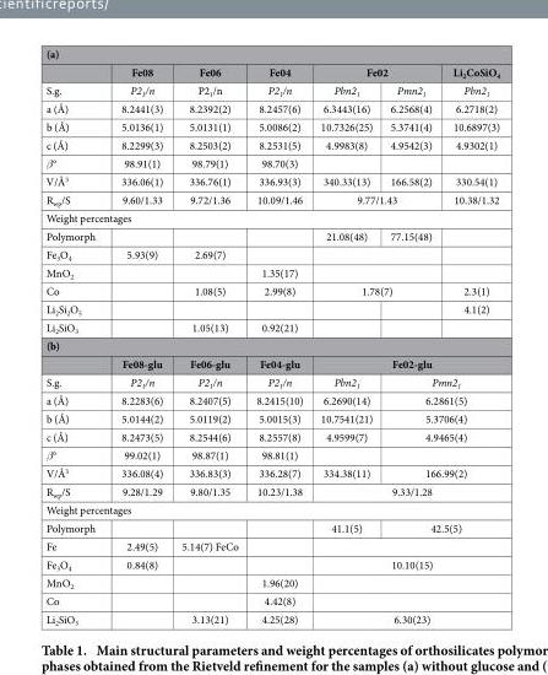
<table><thead><tr><td colspan="7">(a)</td></tr><tr><td rowspan="2">S.g.</td><td rowspan="2">Fe08 P21/n</td><td rowspan="2">Fe06 P21/n</td><td rowspan="2">Fe04 P21/n</td><td colspan="2">Fe02</td><td rowspan="2">Li<sub>2</sub>CoSiO<sub>4</sub> Pbn2<sub>1</sub></td></tr><tr><td>Pbn2<sub>1</sub></td><td>Pmn2<sub>1</sub></td></tr></thead><tbody><tr><td>a (Å)</td><td>8.2441(3)</td><td>8.2392(2)</td><td>8.2457(6)</td><td>6.3443(16)</td><td>6.2568(4)</td><td>6.2718(2)</td></tr><tr><td>b (Å)</td><td>5.0136(1)</td><td>5.0131(1)</td><td>5.0086(2)</td><td>10.7326(25)</td><td>5.3741(4)</td><td>10.6897(3)</td></tr><tr><td>c (Å)</td><td>8.2299(3)</td><td>8.2503(2)</td><td>8.2531(5)</td><td>4.9983(8)</td><td>4.9542(3)</td><td>4.9302(1)</td></tr><tr><td>β°</td><td>98.91(1)</td><td>98.79(1)</td><td>98.70(3)</td><td></td><td></td><td></td></tr><tr><td>V/Å<sup>3</sup></td><td>336.06(1)</td><td>336.76(1)</td><td>336.93(3)</td><td>340.33(13)</td><td>166.58(2)</td><td>330.54(1)</td></tr><tr><td>R<sub>wp</sub>/S</td><td>9.60/1.33</td><td>9.72/1.36</td><td>10.09/1.46</td><td colspan="2">9.77/1.43</td><td>10.38/1.32</td></tr><tr><td colspan="7">Weight percentages</td></tr><tr><td>Polymorph</td><td></td><td></td><td></td><td>21.08(48)</td><td>77.15(48)</td><td></td></tr><tr><td>Fe<sub>3</sub>O<sub>4</sub></td><td>5.93(9)</td><td>2.69(7)</td><td></td><td colspan="2"></td><td></td></tr><tr><td>MnO<sub>2</sub></td><td></td><td></td><td>1.35(17)</td><td colspan="2"></td><td></td></tr><tr><td>Co</td><td></td><td>1.08(5)</td><td>2.99(8)</td><td colspan="2">1.78(7)</td><td>2.3(1)</td></tr><tr><td>Li<sub>2</sub>Si<sub>2</sub>O<sub>5</sub></td><td></td><td></td><td></td><td></td><td></td><td>4.1(2)</td></tr><tr><td>Li<sub>2</sub>SiO<sub>3</sub></td><td></td><td>1.05(13)</td><td>0.92(21)</td><td></td><td></td><td></td></tr><tr><td colspan="7">(b)</td></tr><tr><td></td><td>Fe08-glu</td><td>Fe06-glu</td><td>Fe04-glu</td><td colspan="3">Fe02-glu</td></tr><tr><td>S.g.</td><td>P21/n</td><td>P21/n</td><td>P21/n</td><td>Pbn2<sub>1</sub></td><td colspan="2">Pmn2<sub>1</sub></td></tr><tr><td>a (Å)</td><td>8.2283(6)</td><td>8.2407(5)</td><td>8.2415(10)</td><td>6.2690(14)</td><td colspan="2">6.2861(5)</td></tr><tr><td>b (Å)</td><td>5.0144(2)</td><td>5.0119(2)</td><td>5.0015(3)</td><td>10.7541(21)</td><td colspan="2">5.3706(4)</td></tr><tr><td>c (Å)</td><td>8.2473(5)</td><td>8.2544(6)</td><td>8.2557(8)</td><td>4.9599(7)</td><td colspan="2">4.9465(4)</td></tr><tr><td>β°</td><td>99.02(1)</td><td>98.87(1)</td><td>98.81(1)</td><td></td><td colspan="2"></td></tr><tr><td>V/Å<sup>3</sup></td><td>336.08(4)</td><td>336.83(3)</td><td>336.28(7)</td><td>334.38(11)</td><td colspan="2">166.99(2)</td></tr><tr><td>R<sub>wp</sub>/S</td><td>9.28/1.29</td><td>9.80/1.35</td><td>10.23/1.38</td><td colspan="3">9.33/1.28</td></tr><tr><td colspan="7">Weight percentages</td></tr><tr><td>Polymorph</td><td></td><td></td><td></td><td>41.1(5)</td><td colspan="2">42.5(5)</td></tr><tr><td>Fe</td><td>2.49(5)</td><td>5.14(7) FeCo</td><td></td><td colspan="3"></td></tr><tr><td>Fe<sub>3</sub>O<sub>4</sub></td><td>0.84(8)</td><td></td><td></td><td colspan="3">10.10(15)</td></tr><tr><td>MnO<sub>2</sub></td><td></td><td></td><td>1.96(20)</td><td colspan="3"></td></tr><tr><td>Co</td><td></td><td></td><td>4.42(8)</td><td colspan="3"></td></tr><tr><td>Li<sub>2</sub>SiO<sub>3</sub></td><td></td><td>3.13(21)</td><td>4.25(28)</td><td colspan="3">6.30(23)</td></tr></tbody></table>